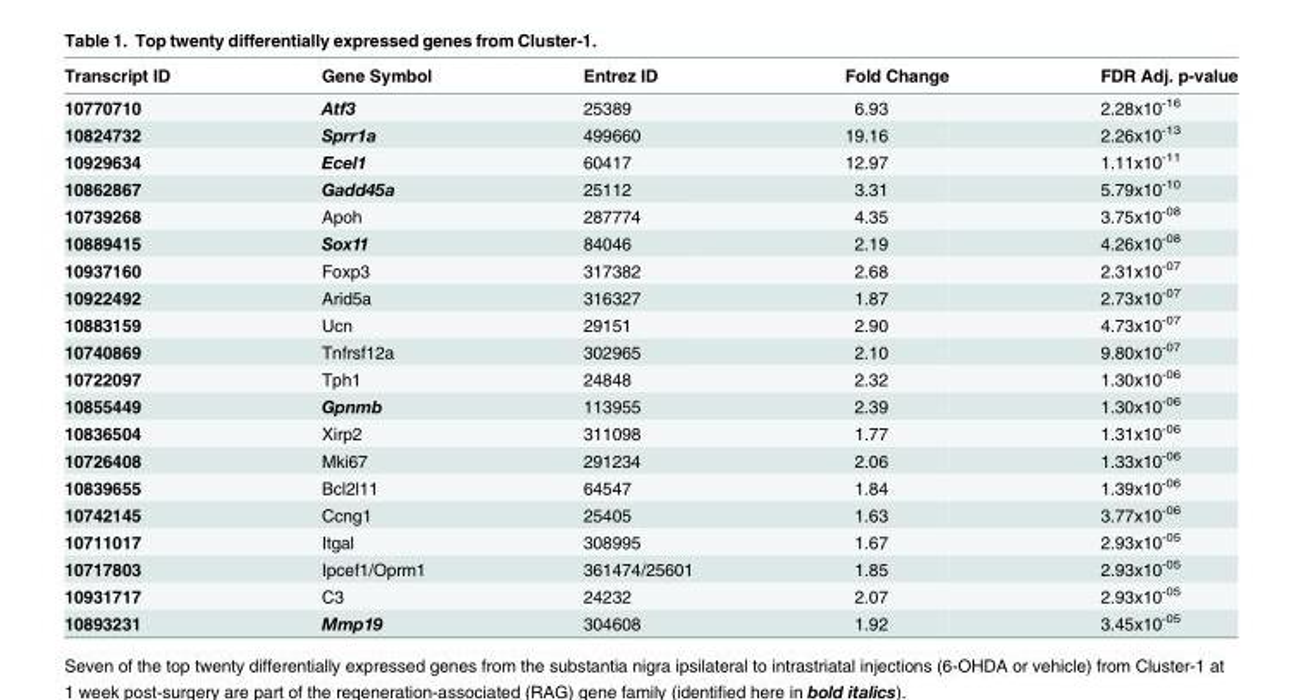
<table><thead><tr><td>Transcript ID</td><td>Gene Symbol</td><td>Entrez ID</td><td>Fold Change</td><td>FDR Adj. p-value</td></tr></thead><tbody><tr><td>10770710</td><td>Atf3</td><td>25389</td><td>6.93</td><td>2.28x10<sup>-16</sup></td></tr><tr><td>10824732</td><td>Sprr1a</td><td>499660</td><td>19.16</td><td>2.26x10<sup>-13</sup></td></tr><tr><td>10929634</td><td>Ecel1</td><td>60417</td><td>12.97</td><td>1.11x10<sup>-11</sup></td></tr><tr><td>10862867</td><td>Gadd45a</td><td>25112</td><td>3.31</td><td>5.79x10<sup>-10</sup></td></tr><tr><td>10739268</td><td>Apoh</td><td>287774</td><td>4.35</td><td>3.75x10<sup>-08</sup></td></tr><tr><td>10889415</td><td>Sox11</td><td>84046</td><td>2.19</td><td>4.26x10<sup>-08</sup></td></tr><tr><td>10937160</td><td>Foxp3</td><td>317382</td><td>2.68</td><td>2.31x10<sup>-07</sup></td></tr><tr><td>10922492</td><td>Arid5a</td><td>316327</td><td>1.87</td><td>2.73x10<sup>-07</sup></td></tr><tr><td>10883159</td><td>Ucn</td><td>29151</td><td>2.90</td><td>4.73x10<sup>-07</sup></td></tr><tr><td>10740869</td><td>Tnfrsf12a</td><td>302965</td><td>2.10</td><td>9.80x10<sup>-07</sup></td></tr><tr><td>10722097</td><td>Tph1</td><td>24848</td><td>2.32</td><td>1.30x10<sup>-06</sup></td></tr><tr><td>10855449</td><td>Gpnmb</td><td>113955</td><td>2.39</td><td>1.30x10<sup>-06</sup></td></tr><tr><td>10836504</td><td>Xirp2</td><td>311098</td><td>1.77</td><td>1.31x10<sup>-06</sup></td></tr><tr><td>10726408</td><td>Mki67</td><td>291234</td><td>2.06</td><td>1.33x10<sup>-06</sup></td></tr><tr><td>10839655</td><td>Bcl2l11</td><td>64547</td><td>1.84</td><td>1.39x10<sup>-06</sup></td></tr><tr><td>10742145</td><td>Ccng1</td><td>25405</td><td>1.63</td><td>3.77x10<sup>-06</sup></td></tr><tr><td>10711017</td><td>Itgal</td><td>308995</td><td>1.67</td><td>2.93x10<sup>-05</sup></td></tr><tr><td>10717803</td><td>Ipcef1/Oprm1</td><td>361474/25601</td><td>1.85</td><td>2.93x10<sup>-05</sup></td></tr><tr><td>10931717</td><td>C3</td><td>24232</td><td>2.07</td><td>2.93x10<sup>-05</sup></td></tr><tr><td>10893231</td><td>Mmp19</td><td>304608</td><td>1.92</td><td>3.45x10<sup>-05</sup></td></tr></tbody></table>